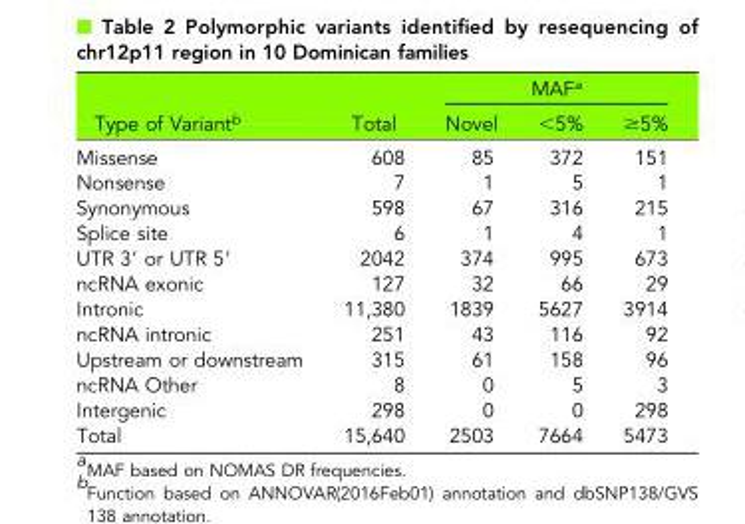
<table><thead><tr><td rowspan="2">Type of Variant<sup>b</sup></td><td rowspan="2">Total</td><td colspan="3">MAF<sup>a</sup></td></tr><tr><td>Novel</td><td>&lt;5%</td><td>≥5%</td></tr></thead><tbody><tr><td>Missense</td><td>608</td><td>85</td><td>372</td><td>151</td></tr><tr><td>Nonsense</td><td>7</td><td>1</td><td>5</td><td>1</td></tr><tr><td>Synonymous</td><td>598</td><td>67</td><td>316</td><td>215</td></tr><tr><td>Splice site</td><td>6</td><td>1</td><td>4</td><td>1</td></tr><tr><td>UTR 3′ or UTR 5′</td><td>2042</td><td>374</td><td>995</td><td>673</td></tr><tr><td>ncRNA exonic</td><td>127</td><td>32</td><td>66</td><td>29</td></tr><tr><td>Intronic</td><td>11,380</td><td>1839</td><td>5627</td><td>3914</td></tr><tr><td>ncRNA intronic</td><td>251</td><td>43</td><td>116</td><td>92</td></tr><tr><td>Upstream or downstream</td><td>315</td><td>61</td><td>158</td><td>96</td></tr><tr><td>ncRNA Other</td><td>8</td><td>0</td><td>5</td><td>3</td></tr><tr><td>Intergenic</td><td>298</td><td>0</td><td>0</td><td>298</td></tr><tr><td>Total</td><td>15,640</td><td>2503</td><td>7664</td><td>5473</td></tr></tbody></table>